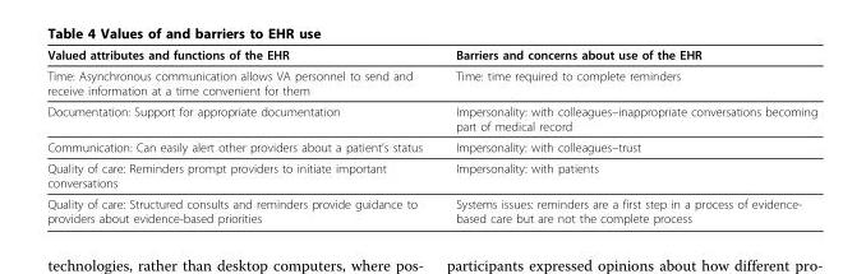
<table><thead><tr><td>Valued attributes and functions of the EHR</td><td>Barriers and concerns about use of the EHR</td></tr></thead><tbody><tr><td>Time: Asynchronous communication allows VA personnel to send and receive information at a time convenient for them</td><td>Time: time required to complete reminders</td></tr><tr><td>Documentation: Support for appropriate documentation</td><td>Impersonality: with colleagues–inappropriate conversations becoming part of medical record</td></tr><tr><td>Communication: Can easily alert other providers about a patient’s status</td><td>Impersonality: with colleagues–trust</td></tr><tr><td>Quality of care: Reminders prompt providers to initiate important conversations</td><td>Impersonality: with patients</td></tr><tr><td>Quality of care: Structured consults and reminders provide guidance to providers about evidence-based priorities</td><td>Systems issues: reminders are a first step in a process of evidence- based care but are not the complete process</td></tr></tbody></table>